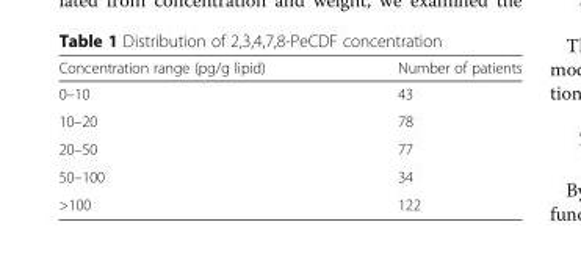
<table><thead><tr><td>Concentration range (pg/g lipid)</td><td>Number of patients</td></tr></thead><tbody><tr><td>0–10</td><td>43</td></tr><tr><td>10–20</td><td>78</td></tr><tr><td>20–50</td><td>77</td></tr><tr><td>50–100</td><td>34</td></tr><tr><td>&gt;100</td><td>122</td></tr></tbody></table>